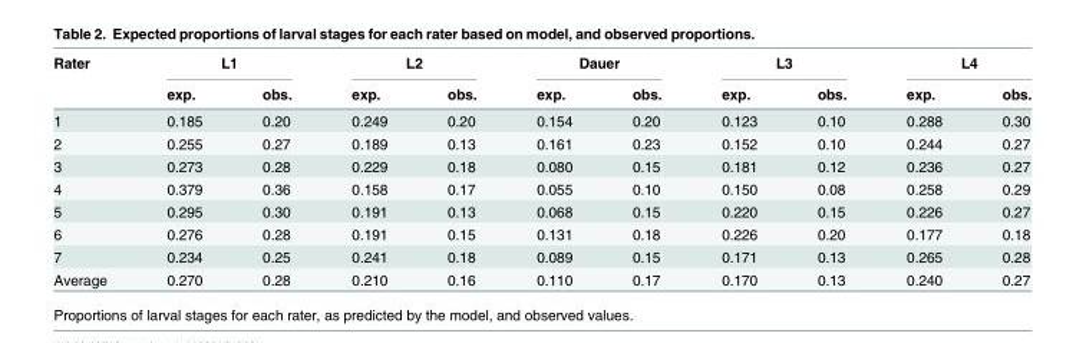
<table><thead><tr><td rowspan="2">Rater</td><td colspan="2">L1</td><td colspan="2">L2</td><td colspan="2">Dauer</td><td colspan="2">L3</td><td colspan="2">L4</td></tr><tr><td>exp.</td><td>obs.</td><td>exp.</td><td>obs.</td><td>exp.</td><td>obs.</td><td>exp.</td><td>obs.</td><td>exp.</td><td>obs.</td></tr></thead><tbody><tr><td>1</td><td>0.185</td><td>0.20</td><td>0.249</td><td>0.20</td><td>0.154</td><td>0.20</td><td>0.123</td><td>0.10</td><td>0.288</td><td>0.30</td></tr><tr><td>2</td><td>0.255</td><td>0.27</td><td>0.189</td><td>0.13</td><td>0.161</td><td>0.23</td><td>0.152</td><td>0.10</td><td>0.244</td><td>0.27</td></tr><tr><td>3</td><td>0.273</td><td>0.28</td><td>0.229</td><td>0.18</td><td>0.080</td><td>0.15</td><td>0.181</td><td>0.12</td><td>0.236</td><td>0.27</td></tr><tr><td>4</td><td>0.379</td><td>0.36</td><td>0.158</td><td>0.17</td><td>0.055</td><td>0.10</td><td>0.150</td><td>0.08</td><td>0.258</td><td>0.29</td></tr><tr><td>5</td><td>0.295</td><td>0.30</td><td>0.191</td><td>0.13</td><td>0.068</td><td>0.15</td><td>0.220</td><td>0.15</td><td>0.226</td><td>0.27</td></tr><tr><td>6</td><td>0.276</td><td>0.28</td><td>0.191</td><td>0.15</td><td>0.131</td><td>0.18</td><td>0.226</td><td>0.20</td><td>0.177</td><td>0.18</td></tr><tr><td>7</td><td>0.234</td><td>0.25</td><td>0.241</td><td>0.18</td><td>0.089</td><td>0.15</td><td>0.171</td><td>0.13</td><td>0.265</td><td>0.28</td></tr><tr><td>Average</td><td>0.270</td><td>0.28</td><td>0.210</td><td>0.16</td><td>0.110</td><td>0.17</td><td>0.170</td><td>0.13</td><td>0.240</td><td>0.27</td></tr></tbody></table>